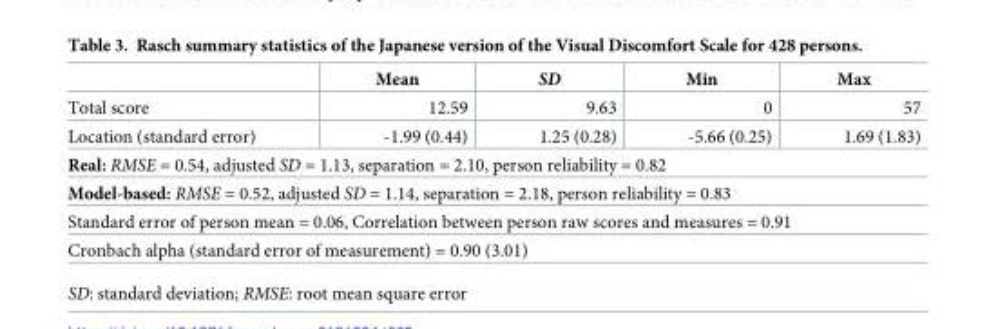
<table><thead><tr><td></td><td>Mean</td><td>SD</td><td>Min</td><td>Max</td></tr></thead><tbody><tr><td>Total score</td><td>12.59</td><td>9.63</td><td>0</td><td>57</td></tr><tr><td>Location (standard error)</td><td>-1.99 (0.44)</td><td>1.25 (0.28)</td><td>-5.66 (0.25)</td><td>1.69 (1.83)</td></tr><tr><td colspan="5">Real: RMSE = 0.54, adjusted SD = 1.13, separation = 2.10, person reliability = 0.82</td></tr><tr><td colspan="5">Model-based: RMSE = 0.52, adjusted SD = 1.14, separation = 2.18, person reliability = 0.83</td></tr><tr><td colspan="5">Standard error of person mean = 0.06, Correlation between person raw scores and measures = 0.91</td></tr><tr><td colspan="5">Cronbach alpha (standard error of measurement) = 0.90 (3.01)</td></tr></tbody></table>